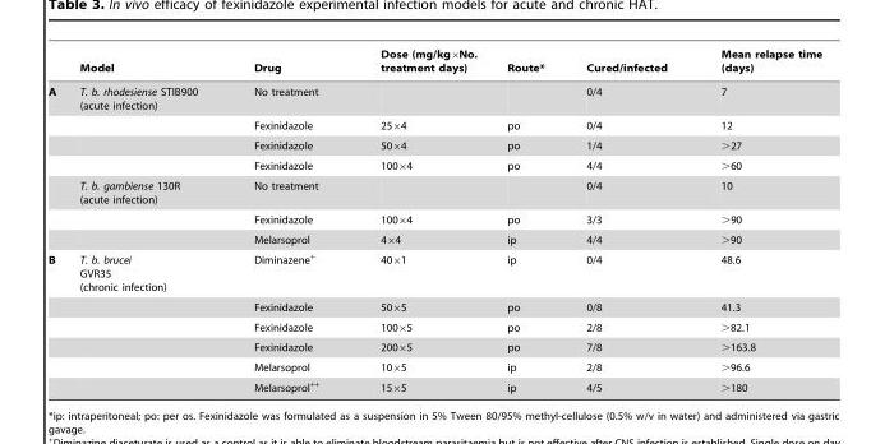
<table><thead><tr><td></td><td>Model</td><td>Drug</td><td>Dose (mg/kg×No. treatment days)</td><td>Route*</td><td>Cured/infected</td><td>Mean relapse time (days)</td></tr></thead><tbody><tr><td rowspan="7">A</td><td>T. b. rhodesiense STIB900 (acute infection)</td><td>No treatment</td><td></td><td></td><td>0/4</td><td>7</td></tr><tr><td></td><td>Fexinidazole</td><td>25×4</td><td>po</td><td>0/4</td><td>12</td></tr><tr><td></td><td>Fexinidazole</td><td>50×4</td><td>po</td><td>1/4</td><td>&gt;27</td></tr><tr><td></td><td>Fexinidazole</td><td>100×4</td><td>po</td><td>4/4</td><td>&gt;60</td></tr><tr><td>T. b. gambiense 130R (acute infection)</td><td>No treatment</td><td></td><td></td><td>0/4</td><td>10</td></tr><tr><td></td><td>Fexinidazole</td><td>100×4</td><td>po</td><td>3/3</td><td>&gt;90</td></tr><tr><td></td><td>Melarsoprol</td><td>4×4</td><td>ip</td><td>4/4</td><td>&gt;90</td></tr><tr><td rowspan="6">B</td><td>T. b. brucei GVR35 (chronic infection)</td><td>Diminazene+</td><td>40×1</td><td>ip</td><td>0/4</td><td>48.6</td></tr><tr><td></td><td>Fexinidazole</td><td>50×5</td><td>po</td><td>0/8</td><td>41.3</td></tr><tr><td></td><td>Fexinidazole</td><td>100×5</td><td>po</td><td>2/8</td><td>&gt;82.1</td></tr><tr><td></td><td>Fexinidazole</td><td>200×5</td><td>po</td><td>7/8</td><td>&gt;163.8</td></tr><tr><td></td><td>Melarsoprol</td><td>10×5</td><td>ip</td><td>2/8</td><td>&gt;96.6</td></tr><tr><td></td><td>Melarsoprol++</td><td>15×5</td><td>ip</td><td>4/5</td><td>&gt;180</td></tr></tbody></table>